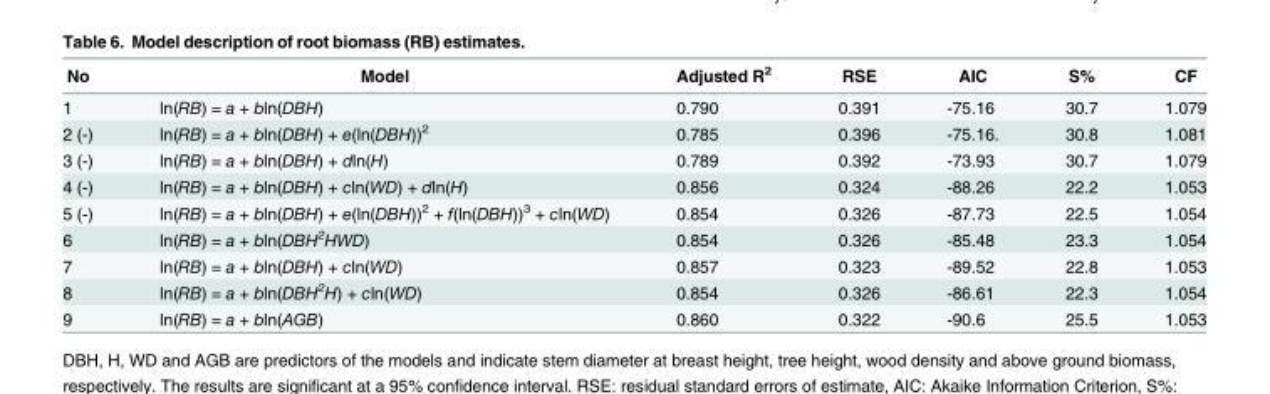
<table><thead><tr><td>No</td><td>Model</td><td>Adjusted R<sup>2</sup></td><td>RSE</td><td>AIC</td><td>S%</td><td>CF</td></tr></thead><tbody><tr><td>1</td><td>ln(RB) = a + bln(DBH)</td><td>0.790</td><td>0.391</td><td>-75.16</td><td>30.7</td><td>1.079</td></tr><tr><td>2 (-)</td><td>ln(RB) = a + bln(DBH) + e(ln(DBH))<sup>2</sup></td><td>0.785</td><td>0.396</td><td>-75.16.</td><td>30.8</td><td>1.081</td></tr><tr><td>3 (-)</td><td>ln(RB) = a + bln(DBH) + dln(H)</td><td>0.789</td><td>0.392</td><td>-73.93</td><td>30.7</td><td>1.079</td></tr><tr><td>4 (-)</td><td>ln(RB) = a + bln(DBH) + cln(WD) + dln(H)</td><td>0.856</td><td>0.324</td><td>-88.26</td><td>22.2</td><td>1.053</td></tr><tr><td>5 (-)</td><td>ln(RB) = a + bln(DBH) + e(ln(DBH))<sup>2</sup> + f(ln(DBH))<sup>3</sup> + cln(WD)</td><td>0.854</td><td>0.326</td><td>-87.73</td><td>22.5</td><td>1.054</td></tr><tr><td>6</td><td>ln(RB) = a + bln(DBH<sup>2</sup>HWD)</td><td>0.854</td><td>0.326</td><td>-85.48</td><td>23.3</td><td>1.054</td></tr><tr><td>7</td><td>ln(RB) = a + bln(DBH) + cln(WD)</td><td>0.857</td><td>0.323</td><td>-89.52</td><td>22.8</td><td>1.053</td></tr><tr><td>8</td><td>ln(RB) = a + bln(DBH<sup>2</sup>H) + cln(WD)</td><td>0.854</td><td>0.326</td><td>-86.61</td><td>22.3</td><td>1.054</td></tr><tr><td>9</td><td>ln(RB) = a + bln(AGB)</td><td>0.860</td><td>0.322</td><td>-90.6</td><td>25.5</td><td>1.053</td></tr></tbody></table>